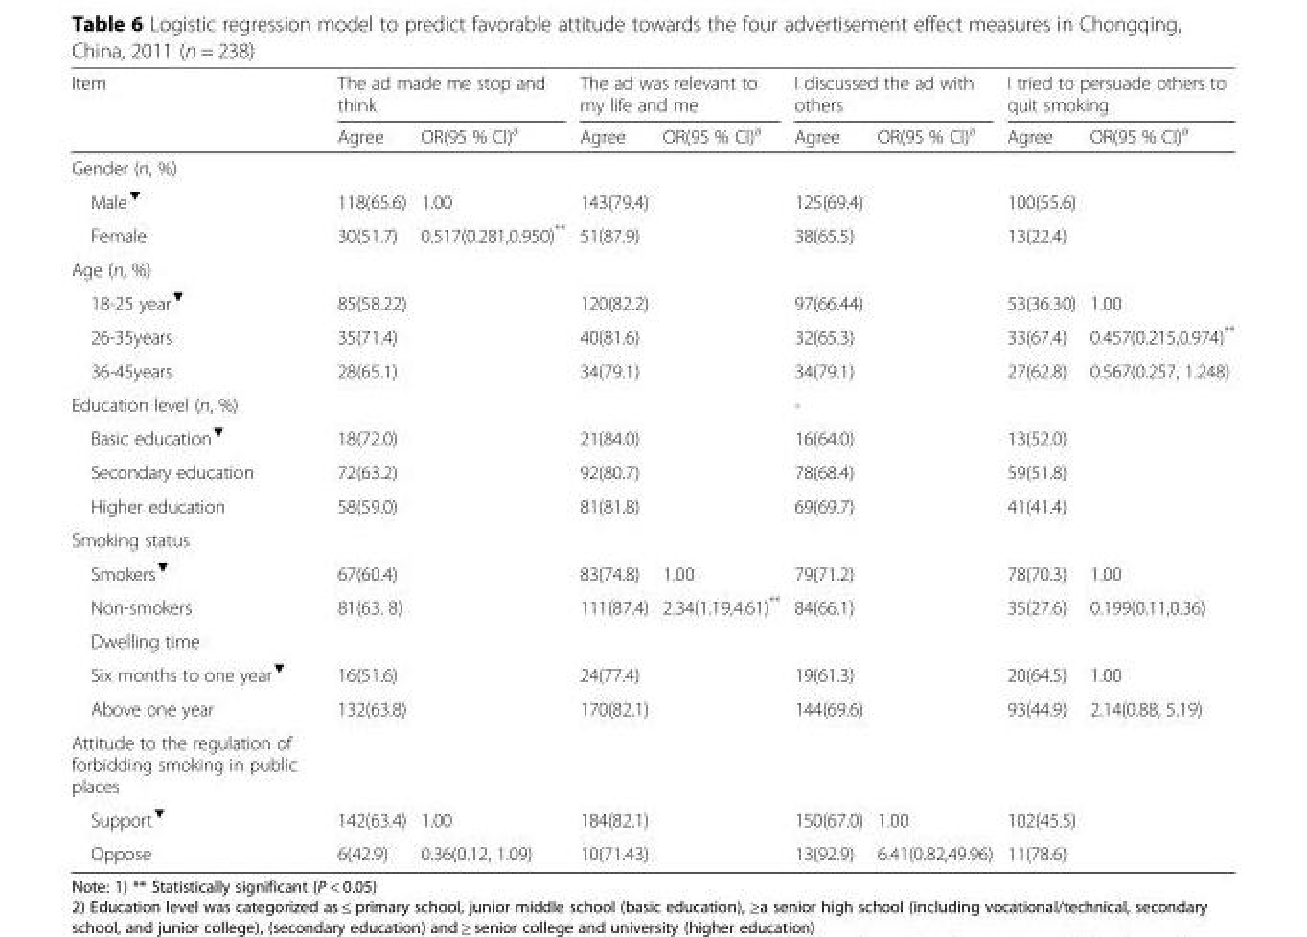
<table><thead><tr><td rowspan="2">Item</td><td colspan="2">The ad made me stop and think</td><td colspan="2">The ad was relevant to my life and me</td><td colspan="2">I discussed the ad with others</td><td colspan="2">I tried to persuade others to quit smoking</td></tr><tr><td>Agree</td><td>OR(95 % CI)<sup>a</sup></td><td>Agree</td><td>OR(95 % CI)<sup>a</sup></td><td>Agree</td><td>OR(95 % CI)<sup>a</sup></td><td>Agree</td><td>OR(95 % CI)<sup>a</sup></td></tr></thead><tbody><tr><td colspan="9">Gender (n, %)</td></tr><tr><td>Male<sup>▼</sup></td><td>118(65.6)</td><td>1.00</td><td>143(79.4)</td><td></td><td>125(69.4)</td><td></td><td>100(55.6)</td><td></td></tr><tr><td>Female</td><td>30(51.7)</td><td>0.517(0.281,0.950)**</td><td>51(87.9)</td><td></td><td>38(65.5)</td><td></td><td>13(22.4)</td><td></td></tr><tr><td colspan="9">Age (n, %)</td></tr><tr><td>18-25 year<sup>▼</sup></td><td>85(58.22)</td><td></td><td>120(82.2)</td><td></td><td>97(66.44)</td><td></td><td>53(36.30)</td><td>1.00</td></tr><tr><td>26-35years</td><td>35(71.4)</td><td></td><td>40(81.6)</td><td></td><td>32(65.3)</td><td></td><td>33(67.4)</td><td>0.457(0.215,0.974)**</td></tr><tr><td>36-45years</td><td>28(65.1)</td><td></td><td>34(79.1)</td><td></td><td>34(79.1)</td><td></td><td>27(62.8)</td><td>0.567(0.257, 1.248)</td></tr><tr><td>Education level (n, %)</td><td></td><td></td><td></td><td></td><td>-</td><td></td><td></td><td></td></tr><tr><td>Basic education<sup>▼</sup></td><td>18(72.0)</td><td></td><td>21(84.0)</td><td></td><td>16(64.0)</td><td></td><td>13(52.0)</td><td></td></tr><tr><td>Secondary education</td><td>72(63.2)</td><td></td><td>92(80.7)</td><td></td><td>78(68.4)</td><td></td><td>59(51.8)</td><td></td></tr><tr><td>Higher education</td><td>58(59.0)</td><td></td><td>81(81.8)</td><td></td><td>69(69.7)</td><td></td><td>41(41.4)</td><td></td></tr><tr><td colspan="9">Smoking status</td></tr><tr><td>Smokers<sup>▼</sup></td><td>67(60.4)</td><td></td><td>83(74.8)</td><td>1.00</td><td>79(71.2)</td><td></td><td>78(70.3)</td><td>1.00</td></tr><tr><td>Non-smokers</td><td>81(63. 8)</td><td></td><td>111(87.4)</td><td>2.34(1.19,4.61)**</td><td>84(66.1)</td><td></td><td>35(27.6)</td><td>0.199(0.11,0.36)</td></tr><tr><td colspan="9">Dwelling time</td></tr><tr><td>Six months to one year<sup>▼</sup></td><td>16(51.6)</td><td></td><td>24(77.4)</td><td></td><td>19(61.3)</td><td></td><td>20(64.5)</td><td>1.00</td></tr><tr><td>Above one year</td><td>132(63.8)</td><td></td><td>170(82.1)</td><td></td><td>144(69.6)</td><td></td><td>93(44.9)</td><td>2.14(0.88, 5.19)</td></tr><tr><td colspan="9">Attitude to the regulation of forbidding smoking in public places</td></tr><tr><td>Support<sup>▼</sup></td><td>142(63.4)</td><td>1.00</td><td>184(82.1)</td><td></td><td>150(67.0)</td><td>1.00</td><td>102(45.5)</td><td></td></tr><tr><td>Oppose</td><td>6(42.9)</td><td>0.36(0.12, 1.09)</td><td>10(71.43)</td><td></td><td>13(92.9)</td><td>6.41(0.82,49.96)</td><td>11(78.6)</td><td></td></tr></tbody></table>